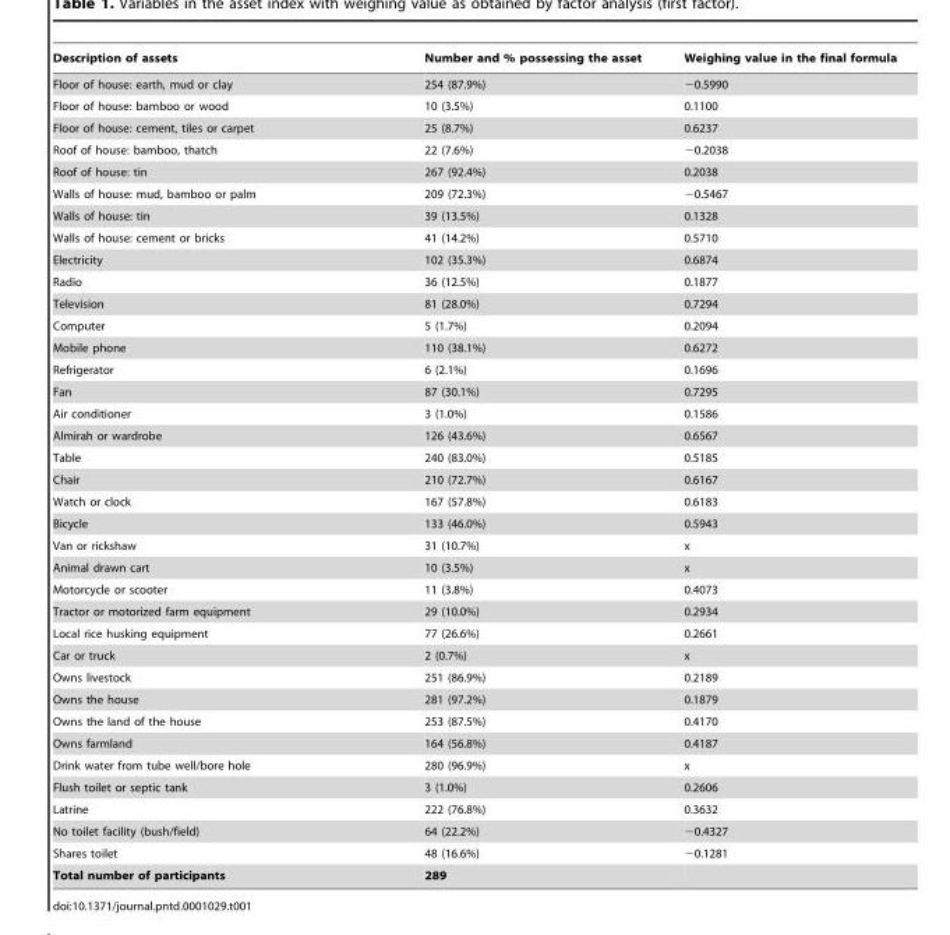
<table><thead><tr><td>Description of assets</td><td>Number and % possessing the asset</td><td>Weighing value in the final formula</td></tr></thead><tbody><tr><td>Floor of house: earth, mud or clay</td><td>254 (87.9%)</td><td>−0.5990</td></tr><tr><td>Floor of house: bamboo or wood</td><td>10 (3.5%)</td><td>0.1100</td></tr><tr><td>Floor of house: cement, tiles or carpet</td><td>25 (8.7%)</td><td>0.6237</td></tr><tr><td>Roof of house: bamboo, thatch</td><td>22 (7.6%)</td><td>−0.2038</td></tr><tr><td>Roof of house: tin</td><td>267 (92.4%)</td><td>0.2038</td></tr><tr><td>Walls of house: mud, bamboo or palm</td><td>209 (72.3%)</td><td>−0.5467</td></tr><tr><td>Walls of house: tin</td><td>39 (13.5%)</td><td>0.1328</td></tr><tr><td>Walls of house: cement or bricks</td><td>41 (14.2%)</td><td>0.5710</td></tr><tr><td>Electricity</td><td>102 (35.3%)</td><td>0.6874</td></tr><tr><td>Radio</td><td>36 (12.5%)</td><td>0.1877</td></tr><tr><td>Television</td><td>81 (28.0%)</td><td>0.7294</td></tr><tr><td>Computer</td><td>5 (1.7%)</td><td>0.2094</td></tr><tr><td>Mobile phone</td><td>110 (38.1%)</td><td>0.6272</td></tr><tr><td>Refrigerator</td><td>6 (2.1%)</td><td>0.1696</td></tr><tr><td>Fan</td><td>87 (30.1%)</td><td>0.7295</td></tr><tr><td>Air conditioner</td><td>3 (1.0%)</td><td>0.1586</td></tr><tr><td>Almirah or wardrobe</td><td>126 (43.6%)</td><td>0.6567</td></tr><tr><td>Table</td><td>240 (83.0%)</td><td>0.5185</td></tr><tr><td>Chair</td><td>210 (72.7%)</td><td>0.6167</td></tr><tr><td>Watch or clock</td><td>167 (57.8%)</td><td>0.6183</td></tr><tr><td>Bicycle</td><td>133 (46.0%)</td><td>0.5943</td></tr><tr><td>Van or rickshaw</td><td>31 (10.7%)</td><td>x</td></tr><tr><td>Animal drawn cart</td><td>10 (3.5%)</td><td>x</td></tr><tr><td>Motorcycle or scooter</td><td>11 (3.8%)</td><td>0.4073</td></tr><tr><td>Tractor or motorized farm equipment</td><td>29 (10.0%)</td><td>0.2934</td></tr><tr><td>Local rice husking equipment</td><td>77 (26.6%)</td><td>0.2661</td></tr><tr><td>Car or truck</td><td>2 (0.7%)</td><td>x</td></tr><tr><td>Owns livestock</td><td>251 (86.9%)</td><td>0.2189</td></tr><tr><td>Owns the house</td><td>281 (97.2%)</td><td>0.1879</td></tr><tr><td>Owns the land of the house</td><td>253 (87.5%)</td><td>0.4170</td></tr><tr><td>Owns farmland</td><td>164 (56.8%)</td><td>0.4187</td></tr><tr><td>Drink water from tube well/bore hole</td><td>280 (96.9%)</td><td>x</td></tr><tr><td>Flush toilet or septic tank</td><td>3 (1.0%)</td><td>0.2606</td></tr><tr><td>Latrine</td><td>222 (76.8%)</td><td>0.3632</td></tr><tr><td>No toilet facility (bush/field)</td><td>64 (22.2%)</td><td>−0.4327</td></tr><tr><td>Shares toilet</td><td>48 (16.6%)</td><td>−0.1281</td></tr><tr><td>Total number of participants</td><td>289</td><td></td></tr></tbody></table>